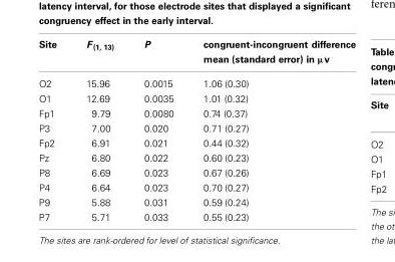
<table><thead><tr><td>Site</td><td>F <sub>(1, 13)</sub></td><td>P</td><td>congruent-incongruent difference mean (standard error) in µv</td></tr></thead><tbody><tr><td>O2</td><td>15.96</td><td>0.0015</td><td>1.06 (0.30)</td></tr><tr><td>O1</td><td>12.69</td><td>0.0035</td><td>1.01 (0.32)</td></tr><tr><td>Fp1</td><td>9.79</td><td>0.0080</td><td>0.74 (0.37)</td></tr><tr><td>P3</td><td>7.00</td><td>0.020</td><td>0.71 (0.27)</td></tr><tr><td>Fp2</td><td>6.91</td><td>0.021</td><td>0.44 (0.32)</td></tr><tr><td>Pz</td><td>6.80</td><td>0.022</td><td>0.60 (0.23)</td></tr><tr><td>P8</td><td>6.69</td><td>0.023</td><td>0.67 (0.26)</td></tr><tr><td>P4</td><td>6.64</td><td>0.023</td><td>0.70 (0.27)</td></tr><tr><td>P9</td><td>5.88</td><td>0.031</td><td>0.59 (0.24)</td></tr><tr><td>P7</td><td>5.71</td><td>0.033</td><td>0.55 (0.23)</td></tr></tbody></table>